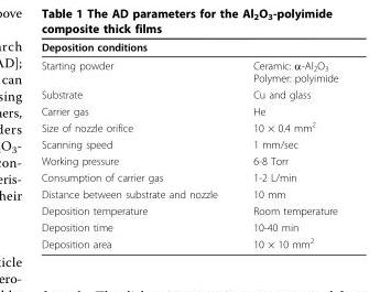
<table><thead><tr><td colspan="2">Deposition conditions</td></tr><tr><td>Starting powder</td><td>Ceramic: α-Al<sub>2</sub>O<sub>3</sub> Polymer: polyimide</td></tr></thead><tbody><tr><td>Substrate</td><td>Cu and glass</td></tr><tr><td>Carrier gas</td><td>He</td></tr><tr><td>Size of nozzle orifice</td><td>10 × 0.4 mm<sup>2</sup></td></tr><tr><td>Scanning speed</td><td>1 mm/sec</td></tr><tr><td>Working pressure</td><td>6-8 Torr</td></tr><tr><td>Consumption of carrier gas</td><td>1-2 L/min</td></tr><tr><td>Distance between substrate and nozzle</td><td>10 mm</td></tr><tr><td>Deposition temperature</td><td>Room temperature</td></tr><tr><td>Deposition time</td><td>10-40 min</td></tr><tr><td>Deposition area</td><td>10 × 10 mm<sup>2</sup></td></tr></tbody></table>